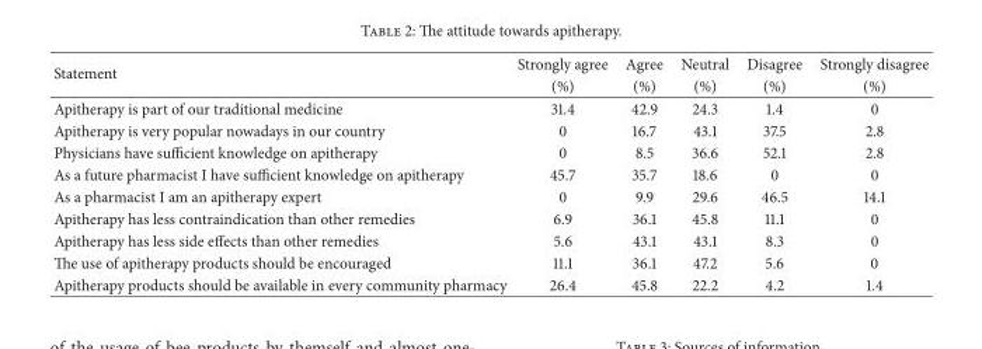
<table><thead><tr><td rowspan="2">Statement</td><td rowspan="2">Strongly agree (%)</td><td rowspan="2">Agree (%)</td><td rowspan="2">Neutral (%)</td><td rowspan="2">Disagree (%)</td><td rowspan="2">Strongly disagree (%)</td></tr><tr></tr></thead><tbody><tr><td>Apitherapy is part of our traditional medicine</td><td>31.4</td><td>42.9</td><td>24.3</td><td>1.4</td><td>0</td></tr><tr><td>Apitherapy is very popular nowadays in our country</td><td>0</td><td>16.7</td><td>43.1</td><td>37.5</td><td>2.8</td></tr><tr><td>Physicians have sufficient knowledge on apitherapy</td><td>0</td><td>8.5</td><td>36.6</td><td>52.1</td><td>2.8</td></tr><tr><td>As a future pharmacist I have sufficient knowledge on apitherapy</td><td>45.7</td><td>35.7</td><td>18.6</td><td>0</td><td>0</td></tr><tr><td>As a pharmacist I am an apitherapy expert</td><td>0</td><td>9.9</td><td>29.6</td><td>46.5</td><td>14.1</td></tr><tr><td>Apitherapy has less contraindication than other remedies</td><td>6.9</td><td>36.1</td><td>45.8</td><td>11.1</td><td>0</td></tr><tr><td>Apitherapy has less side effects than other remedies</td><td>5.6</td><td>43.1</td><td>43.1</td><td>8.3</td><td>0</td></tr><tr><td>The use of apitherapy products should be encouraged</td><td>11.1</td><td>36.1</td><td>47.2</td><td>5.6</td><td>0</td></tr><tr><td>Apitherapy products should be available in every community pharmacy</td><td>26.4</td><td>45.8</td><td>22.2</td><td>4.2</td><td>1.4</td></tr></tbody></table>